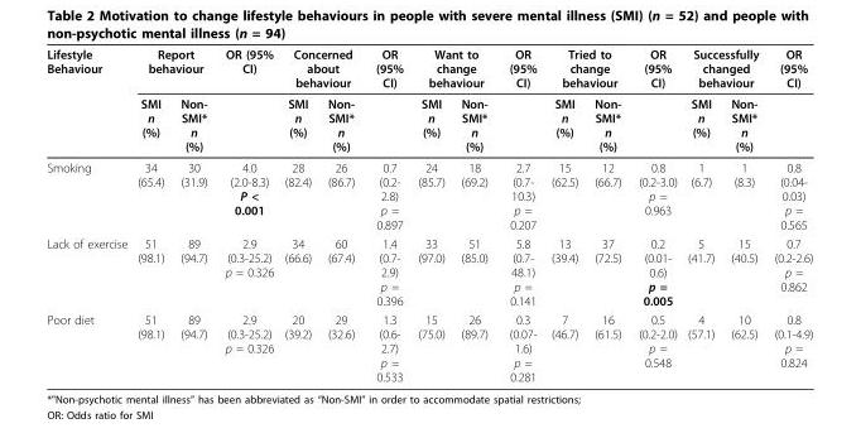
<table><thead><tr><td rowspan="2">Lifestyle Behaviour</td><td colspan="2">Report behaviour</td><td rowspan="2">OR (95% CI)</td><td colspan="2">Concerned about behaviour</td><td rowspan="2">OR (95% CI)</td><td colspan="2">Want to change behaviour</td><td rowspan="2">OR (95% CI)</td><td colspan="2">Tried to change behaviour</td><td rowspan="2">OR (95% CI)</td><td colspan="2">Successfully changed behaviour</td><td rowspan="2">OR (95% CI)</td></tr><tr><td>SMI n (%)</td><td>Non- SMI* n (%)</td><td>SMI n (%)</td><td>Non- SMI* n (%)</td><td>SMI n (%)</td><td>Non- SMI* n (%)</td><td>SMI n (%)</td><td>Non- SMI* n (%)</td><td>SMI n (%)</td><td>Non- SMI* n (%)</td></tr></thead><tbody><tr><td>Smoking</td><td>34 (65.4)</td><td>30 (31.9)</td><td>4.0 (2.0-8.3) P &lt; 0.001</td><td>28 (82.4)</td><td>26 (86.7)</td><td>0.7 (0.2- 2.8) p = 0.897</td><td>24 (85.7)</td><td>18 (69.2)</td><td>2.7 (0.7- 10.3) p = 0.207</td><td>15 (62.5)</td><td>12 (66.7)</td><td>0.8 (0.2-3.0) p = 0.963</td><td>1 (6.7)</td><td>1 (8.3)</td><td>0.8 (0.04- 0.03) p = 0.565</td></tr><tr><td>Lack of exercise</td><td>51 (98.1)</td><td>89 (94.7)</td><td>2.9 (0.3-25.2) p = 0.326</td><td>34 (66.6)</td><td>60 (67.4)</td><td>1.4 (0.7- 2.9) p = 0.396</td><td>33 (97.0)</td><td>51 (85.0)</td><td>5.8 (0.7- 48.1) p = 0.141</td><td>13 (39.4)</td><td>37 (72.5)</td><td>0.2 (0.01- 0.6) p = 0.005</td><td>5 (41.7)</td><td>15 (40.5)</td><td>0.7 (0.2-2.6) p = 0.862</td></tr><tr><td>Poor diet</td><td>51 (98.1)</td><td>89 (94.7)</td><td>2.9 (0.3-25.2) p = 0.326</td><td>20 (39.2)</td><td>29 (32.6)</td><td>1.3 (0.6- 2.7) p = 0.533</td><td>15 (75.0)</td><td>26 (89.7)</td><td>0.3 (0.07- 1.6) p = 0.281</td><td>7 (46.7)</td><td>16 (61.5)</td><td>0.5 (0.2-2.0) p = 0.548</td><td>4 (57.1)</td><td>10 (62.5)</td><td>0.8 (0.1-4.9) p = 0.824</td></tr></tbody></table>